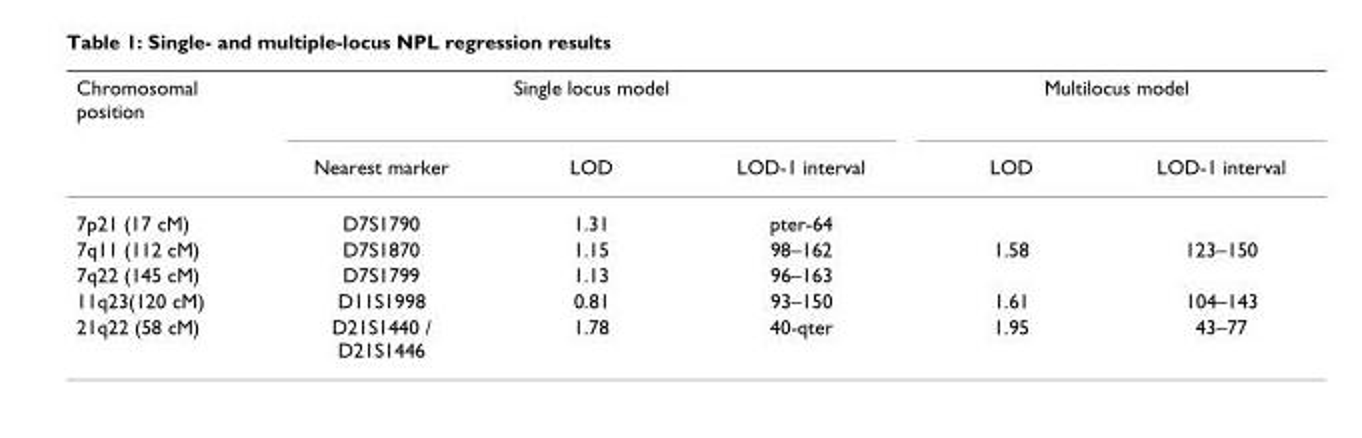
<table><thead><tr><td rowspan="2">Chromosomal position</td><td colspan="3">Single locus model</td><td colspan="2">Multilocus model</td></tr><tr><td>Nearest marker</td><td>LOD</td><td>LOD-1 interval</td><td>LOD</td><td>LOD-1 interval</td></tr></thead><tbody><tr><td>7p21 (17 cM)</td><td>D7S1790</td><td>1.31</td><td>pter-64</td><td></td><td></td></tr><tr><td>7q11 (112 cM)</td><td>D7S1870</td><td>1.15</td><td>98–162</td><td>1.58</td><td>123–150</td></tr><tr><td>7q22 (145 cM)</td><td>D7S1799</td><td>1.13</td><td>96–163</td><td></td><td></td></tr><tr><td>11q23(120 cM)</td><td>D11S1998</td><td>0.81</td><td>93–150</td><td>1.61</td><td>104–143</td></tr><tr><td>21q22 (58 cM)</td><td>D21S1440 / D21S1446</td><td>1.78</td><td>40-qter</td><td>1.95</td><td>43–77</td></tr></tbody></table>